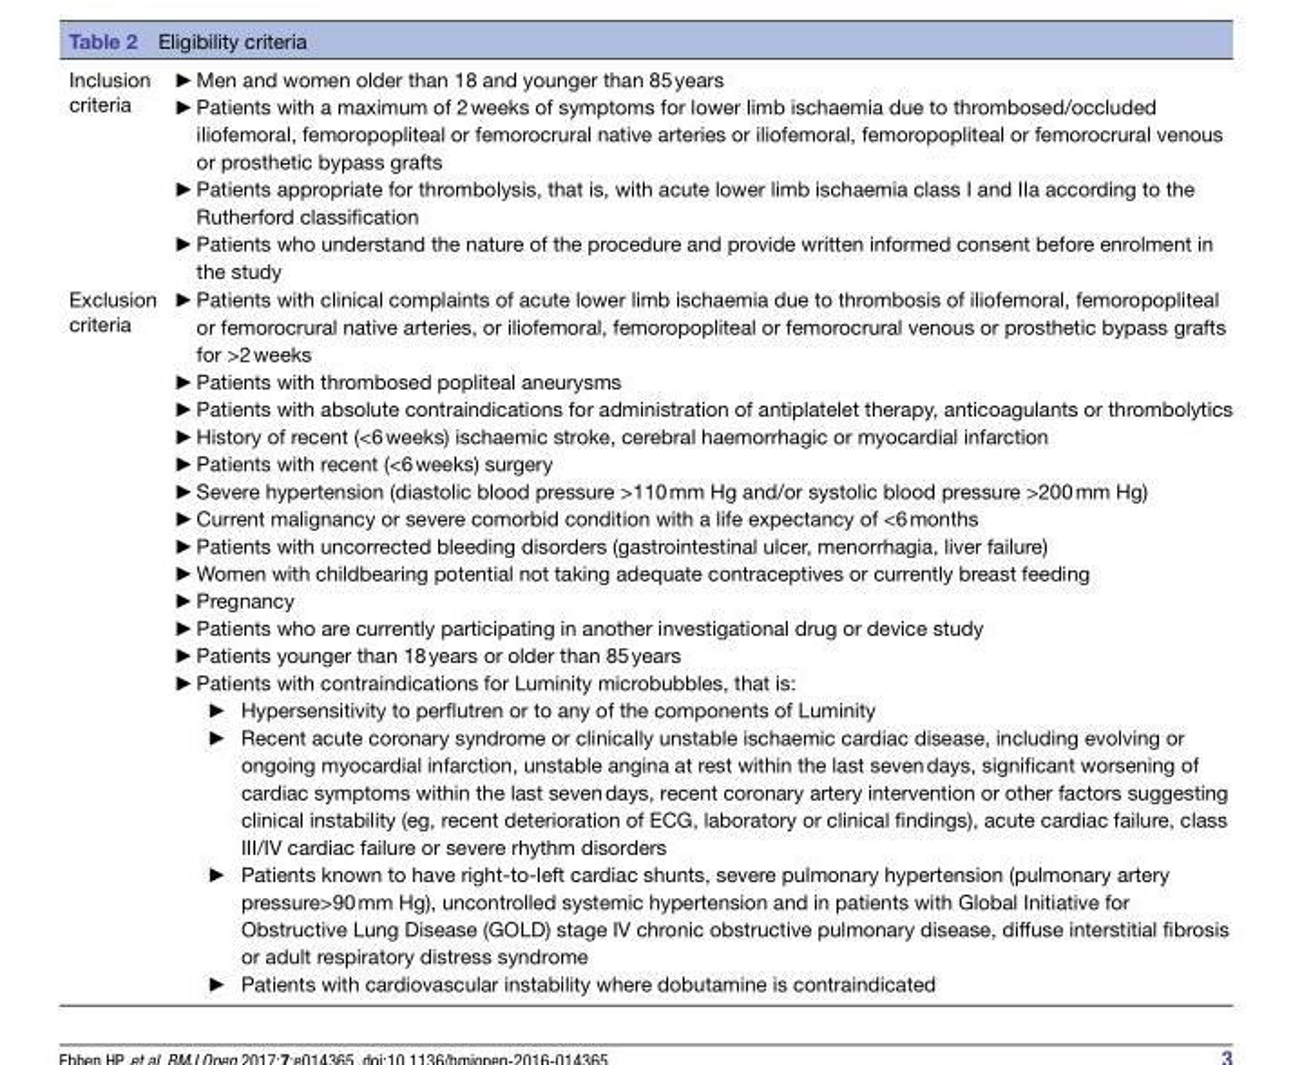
<table><tbody><tr><td>Inclusion criteria</td><td>►Men and women older than 18 and younger than 85 years ►Patients with a maximum of 2 weeks of symptoms for lower limb ischaemia due to thrombosed/occluded iliofemoral, femoropopliteal or femorocrural native arteries or iliofemoral, femoropopliteal or femorocrural venous or prosthetic bypass grafts ►Patients appropriate for thrombolysis, that is, with acute lower limb ischaemia class I and IIa according to the Rutherford classification ►Patients who understand the nature of the procedure and provide written informed consent before enrolment in the study</td></tr><tr><td>Exclusion criteria</td><td>►Patients with clinical complaints of acute lower limb ischaemia due to thrombosis of iliofemoral, femoropopliteal or femorocrural native arteries, or iliofemoral, femoropopliteal or femorocrural venous or prosthetic bypass grafts for &gt;2 weeks ►Patients with thrombosed popliteal aneurysms ►Patients with absolute contraindications for administration of antiplatelet therapy, anticoagulants or thrombolytics ►History of recent (&lt;6 weeks) ischaemic stroke, cerebral haemorrhagic or myocardial infarction ►Patients with recent (&lt;6 weeks) surgery ►Severe hypertension (diastolic blood pressure &gt;110 mm Hg and/or systolic blood pressure &gt;200 mm Hg) ►Current malignancy or severe comorbid condition with a life expectancy of &lt;6 months ►Patients with uncorrected bleeding disorders (gastrointestinal ulcer, menorrhagia, liver failure) ►Women with childbearing potential not taking adequate contraceptives or currently breast feeding ►Pregnancy ►Patients who are currently participating in another investigational drug or device study ►Patients younger than 18 years or older than 85 years ►Patients with contraindications for Luminity microbubbles, that is: ► Hypersensitivity to perflutren or to any of the components of Luminity ► Recent acute coronary syndrome or clinically unstable ischaemic cardiac disease, including evolving or ongoing myocardial infarction, unstable angina at rest within the last seven days, significant worsening of cardiac symptoms within the last seven days, recent coronary artery intervention or other factors suggesting clinical instability (eg, recent deterioration of ECG, laboratory or clinical findings), acute cardiac failure, class III/IV cardiac failure or severe rhythm disorders ► Patients known to have right-to-left cardiac shunts, severe pulmonary hypertension (pulmonary artery pressure&gt;90 mm Hg), uncontrolled systemic hypertension and in patients with Global Initiative for Obstructive Lung Disease (GOLD) stage IV chronic obstructive pulmonary disease, diffuse interstitial fibrosis or adult respiratory distress syndrome ► Patients with cardiovascular instability where dobutamine is contraindicated</td></tr></tbody></table>